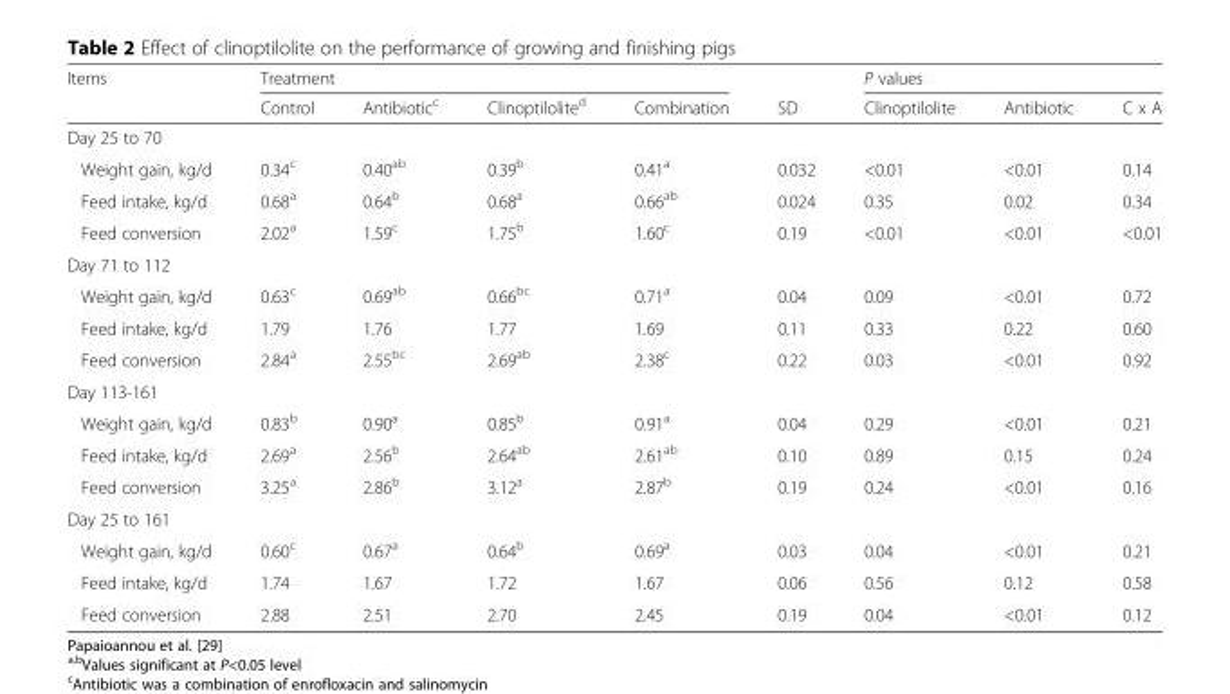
<table><thead><tr><td rowspan="2">Items</td><td colspan="4">Treatment</td><td rowspan="2">SD</td><td colspan="3">P values</td></tr><tr><td>Control</td><td>Antibiotic<sup>c</sup></td><td>Clinoptilolite<sup>d</sup></td><td>Combination</td><td>Clinoptilolite</td><td>Antibiotic</td><td>C x A</td></tr></thead><tbody><tr><td colspan="9">Day 25 to 70</td></tr><tr><td>Weight gain, kg/d</td><td>0.34<sup>c</sup></td><td>0.40<sup>ab</sup></td><td>0.39<sup>b</sup></td><td>0.41<sup>a</sup></td><td>0.032</td><td>&lt;0.01</td><td>&lt;0.01</td><td>0.14</td></tr><tr><td>Feed intake, kg/d</td><td>0.68<sup>a</sup></td><td>0.64<sup>b</sup></td><td>0.68<sup>a</sup></td><td>0.66<sup>ab</sup></td><td>0.024</td><td>0.35</td><td>0.02</td><td>0.34</td></tr><tr><td>Feed conversion</td><td>2.02<sup>a</sup></td><td>1.59<sup>c</sup></td><td>1.75<sup>b</sup></td><td>1.60<sup>c</sup></td><td>0.19</td><td>&lt;0.01</td><td>&lt;0.01</td><td>&lt;0.01</td></tr><tr><td colspan="9">Day 71 to 112</td></tr><tr><td>Weight gain, kg/d</td><td>0.63<sup>c</sup></td><td>0.69<sup>ab</sup></td><td>0.66<sup>bc</sup></td><td>0.71<sup>a</sup></td><td>0.04</td><td>0.09</td><td>&lt;0.01</td><td>0.72</td></tr><tr><td>Feed intake, kg/d</td><td>1.79</td><td>1.76</td><td>1.77</td><td>1.69</td><td>0.11</td><td>0.33</td><td>0.22</td><td>0.60</td></tr><tr><td>Feed conversion</td><td>2.84<sup>a</sup></td><td>2.55<sup>bc</sup></td><td>2.69<sup>ab</sup></td><td>2.38<sup>c</sup></td><td>0.22</td><td>0.03</td><td>&lt;0.01</td><td>0.92</td></tr><tr><td colspan="9">Day 113-161</td></tr><tr><td>Weight gain, kg/d</td><td>0.83<sup>b</sup></td><td>0.90<sup>a</sup></td><td>0.85<sup>b</sup></td><td>0.91<sup>a</sup></td><td>0.04</td><td>0.29</td><td>&lt;0.01</td><td>0.21</td></tr><tr><td>Feed intake, kg/d</td><td>2.69<sup>a</sup></td><td>2.56<sup>b</sup></td><td>2.64<sup>ab</sup></td><td>2.61<sup>ab</sup></td><td>0.10</td><td>0.89</td><td>0.15</td><td>0.24</td></tr><tr><td>Feed conversion</td><td>3.25<sup>a</sup></td><td>2.86<sup>b</sup></td><td>3.12<sup>a</sup></td><td>2.87<sup>b</sup></td><td>0.19</td><td>0.24</td><td>&lt;0.01</td><td>0.16</td></tr><tr><td colspan="9">Day 25 to 161</td></tr><tr><td>Weight gain, kg/d</td><td>0.60<sup>c</sup></td><td>0.67<sup>a</sup></td><td>0.64<sup>b</sup></td><td>0.69<sup>a</sup></td><td>0.03</td><td>0.04</td><td>&lt;0.01</td><td>0.21</td></tr><tr><td>Feed intake, kg/d</td><td>1.74</td><td>1.67</td><td>1.72</td><td>1.67</td><td>0.06</td><td>0.56</td><td>0.12</td><td>0.58</td></tr><tr><td>Feed conversion</td><td>2.88</td><td>2.51</td><td>2.70</td><td>2.45</td><td>0.19</td><td>0.04</td><td>&lt;0.01</td><td>0.12</td></tr></tbody></table>